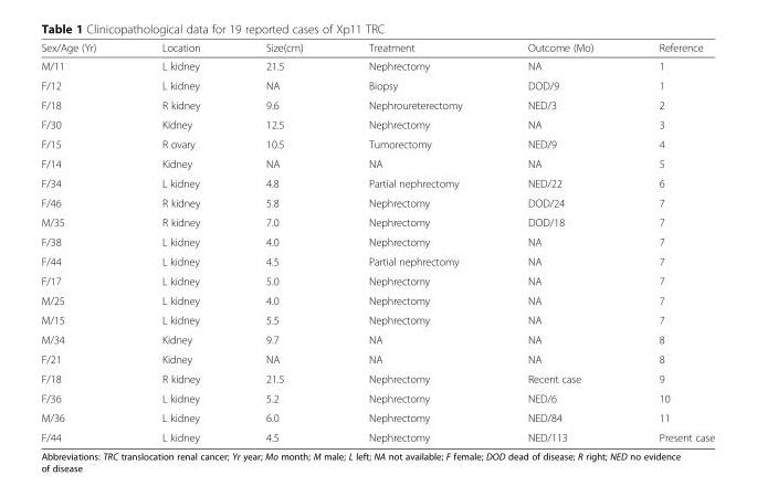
<table><thead><tr><td>Sex/Age (Yr)</td><td>Location</td><td>Size(cm)</td><td>Treatment</td><td>Outcome (Mo)</td><td>Reference</td></tr></thead><tbody><tr><td>M/11</td><td>L kidney</td><td>21.5</td><td>Nephrectomy</td><td>NA</td><td>1</td></tr><tr><td>F/12</td><td>L kidney</td><td>NA</td><td>Biopsy</td><td>DOD/9</td><td>1</td></tr><tr><td>F/18</td><td>R kidney</td><td>9.6</td><td>Nephroureterectomy</td><td>NED/3</td><td>2</td></tr><tr><td>F/30</td><td>Kidney</td><td>12.5</td><td>Nephrectomy</td><td>NA</td><td>3</td></tr><tr><td>F/15</td><td>R ovary</td><td>10.5</td><td>Tumorectomy</td><td>NED/9</td><td>4</td></tr><tr><td>F/14</td><td>Kidney</td><td>NA</td><td>NA</td><td>NA</td><td>5</td></tr><tr><td>F/34</td><td>L kidney</td><td>4.8</td><td>Partial nephrectomy</td><td>NED/22</td><td>6</td></tr><tr><td>F/46</td><td>R kidney</td><td>5.8</td><td>Nephrectomy</td><td>DOD/24</td><td>7</td></tr><tr><td>M/35</td><td>R kidney</td><td>7.0</td><td>Nephrectomy</td><td>DOD/18</td><td>7</td></tr><tr><td>F/38</td><td>L kidney</td><td>4.0</td><td>Nephrectomy</td><td>NA</td><td>7</td></tr><tr><td>F/44</td><td>L kidney</td><td>4.5</td><td>Partial nephrectomy</td><td>NA</td><td>7</td></tr><tr><td>F/17</td><td>L kidney</td><td>5.0</td><td>Nephrectomy</td><td>NA</td><td>7</td></tr><tr><td>M/25</td><td>L kidney</td><td>4.0</td><td>Nephrectomy</td><td>NA</td><td>7</td></tr><tr><td>M/15</td><td>L kidney</td><td>5.5</td><td>Nephrectomy</td><td>NA</td><td>7</td></tr><tr><td>M/34</td><td>Kidney</td><td>9.7</td><td>NA</td><td>NA</td><td>8</td></tr><tr><td>F/21</td><td>Kidney</td><td>NA</td><td>NA</td><td>NA</td><td>8</td></tr><tr><td>F/18</td><td>R kidney</td><td>21.5</td><td>Nephrectomy</td><td>Recent case</td><td>9</td></tr><tr><td>F/36</td><td>L kidney</td><td>5.2</td><td>Nephrectomy</td><td>NED/6</td><td>10</td></tr><tr><td>M/36</td><td>L kidney</td><td>6.0</td><td>Nephrectomy</td><td>NED/84</td><td>11</td></tr><tr><td>F/44</td><td>L kidney</td><td>4.5</td><td>Nephrectomy</td><td>NED/113</td><td>Present case</td></tr></tbody></table>